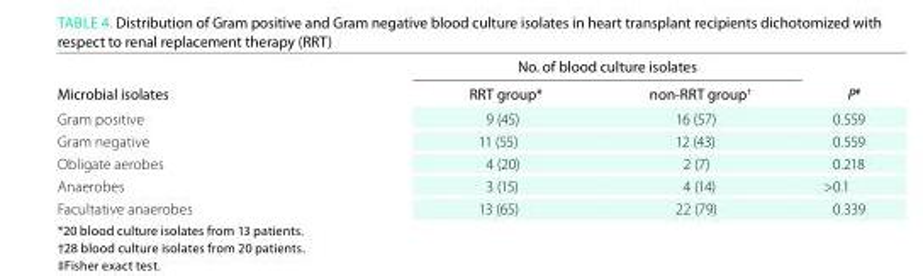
<table><thead><tr><td rowspan="2">Microbial isolates</td><td colspan="2">No. of blood culture isolates</td><td rowspan="2">P<sup>‡</sup></td></tr><tr><td>rrT group*</td><td>non-rrT group<sup>†</sup></td></tr></thead><tbody><tr><td>Gram positive</td><td>9 (45)</td><td>16 (57)</td><td>0.559</td></tr><tr><td>Gram negative</td><td>11 (55)</td><td>12 (43)</td><td>0.559</td></tr><tr><td>Obligate aerobes</td><td>4 (20)</td><td>2 (7)</td><td>0.218</td></tr><tr><td>Anaerobes</td><td>3 (15)</td><td>4 (14)</td><td>&gt;0.1</td></tr><tr><td>Facultative anaerobes</td><td>13 (65)</td><td>22 (79)</td><td>0.339</td></tr></tbody></table>